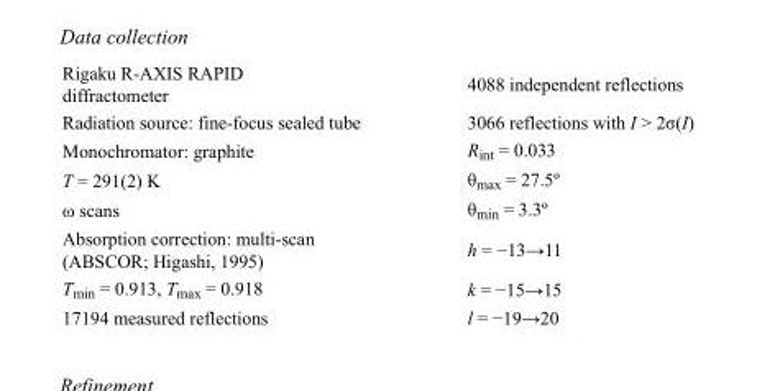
<table><tbody><tr><td>Rigaku R-AXIS RAPID diffractometer</td><td>4088 independent reflections</td></tr><tr><td>Radiation source: fine-focus sealed tube</td><td>3066 reflections with I &gt; 2σ(I)</td></tr><tr><td>Monochromator: graphite</td><td>R<sub>int</sub> = 0.033</td></tr><tr><td>T = 291(2) K</td><td>θ<sub>max</sub> = 27.5º</td></tr><tr><td>ω scans</td><td>θ<sub>min</sub> = 3.3º</td></tr><tr><td>Absorption correction: multi-scan (ABSCOR; Higashi, 1995)</td><td>h = −13→11</td></tr><tr><td>T<sub>min</sub> = 0.913, T<sub>max</sub> = 0.918</td><td>k = −15→15</td></tr><tr><td>17194 measured reflections</td><td>l = −19→20</td></tr></tbody></table>